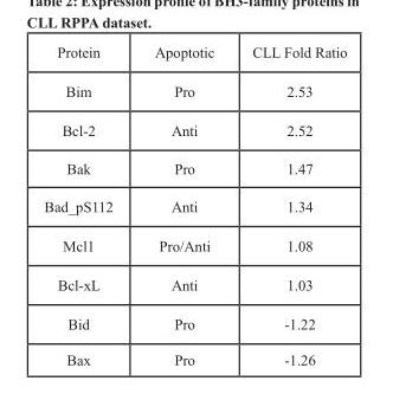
<table><thead><tr><td>Protein</td><td>Apoptotic</td><td>CLL Fold Ratio</td></tr></thead><tbody><tr><td>Bim</td><td>Pro</td><td>2.53</td></tr><tr><td>Bcl-2</td><td>Anti</td><td>2.52</td></tr><tr><td>Bak</td><td>Pro</td><td>1.47</td></tr><tr><td>Bad_pS112</td><td>Anti</td><td>1.34</td></tr><tr><td>Mcl1</td><td>Pro/Anti</td><td>1.08</td></tr><tr><td>Bcl-xL</td><td>Anti</td><td>1.03</td></tr><tr><td>Bid</td><td>Pro</td><td>-1.22</td></tr><tr><td>Bax</td><td>Pro</td><td>-1.26</td></tr></tbody></table>